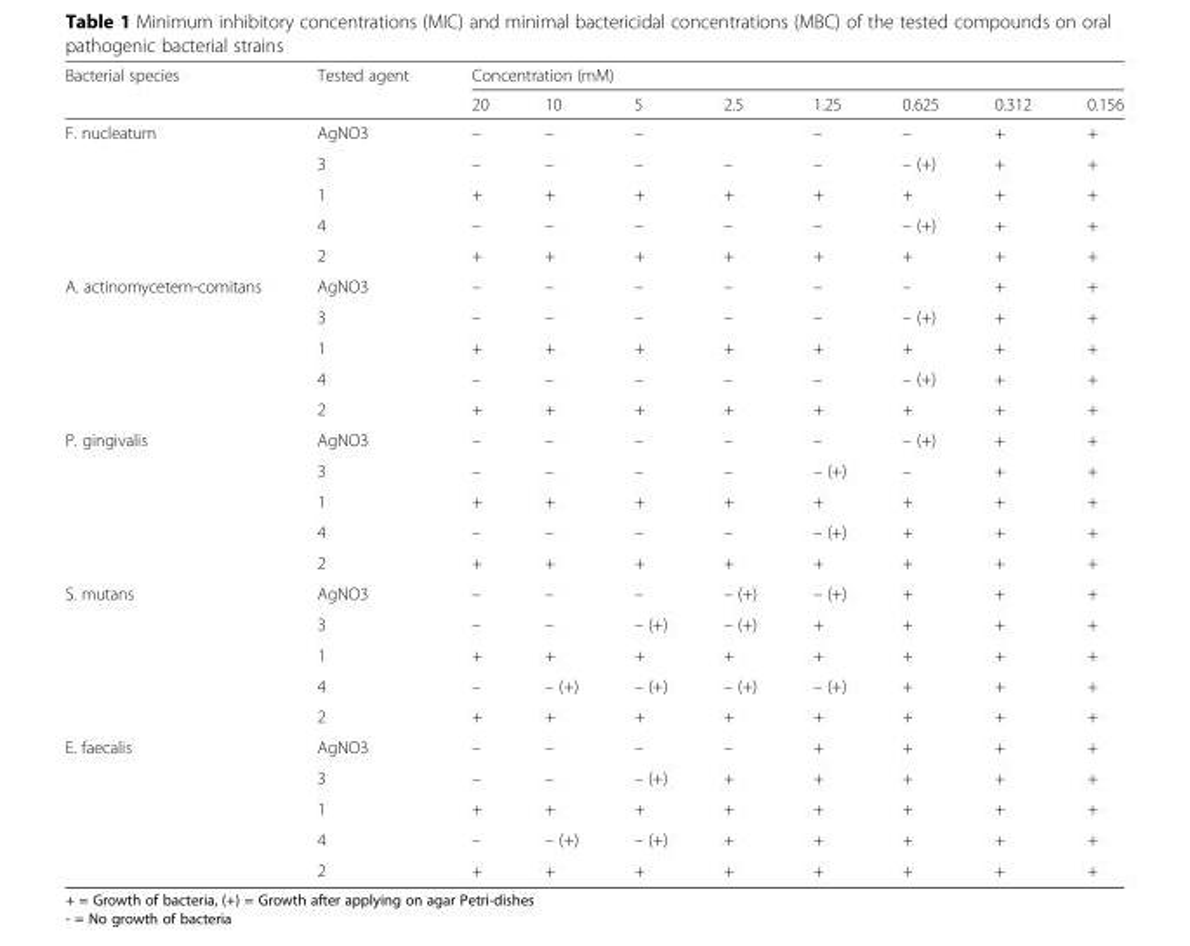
<table><thead><tr><td rowspan="2">Bacterial species</td><td rowspan="2">Tested agent</td><td colspan="8">Concentration (mM)</td></tr><tr><td>20</td><td>10</td><td>5</td><td>2.5</td><td>1.25</td><td>0.625</td><td>0.312</td><td>0.156</td></tr></thead><tbody><tr><td rowspan="5">F. nucleatum</td><td>AgNO3</td><td>–</td><td>–</td><td>–</td><td></td><td>–</td><td>–</td><td>+</td><td>+</td></tr><tr><td>3</td><td>–</td><td>–</td><td>–</td><td>–</td><td>–</td><td>– (+)</td><td>+</td><td>+</td></tr><tr><td>1</td><td>+</td><td>+</td><td>+</td><td>+</td><td>+</td><td>+</td><td>+</td><td>+</td></tr><tr><td>4</td><td>–</td><td>–</td><td>–</td><td>–</td><td>–</td><td>– (+)</td><td>+</td><td>+</td></tr><tr><td>2</td><td>+</td><td>+</td><td>+</td><td>+</td><td>+</td><td>+</td><td>+</td><td>+</td></tr><tr><td rowspan="5">A. actinomycetem-comitans</td><td>AgNO3</td><td>–</td><td>–</td><td>–</td><td>–</td><td>–</td><td>–</td><td>+</td><td>+</td></tr><tr><td>3</td><td>–</td><td>–</td><td>–</td><td>–</td><td>–</td><td>– (+)</td><td>+</td><td>+</td></tr><tr><td>1</td><td>+</td><td>+</td><td>+</td><td>+</td><td>+</td><td>+</td><td>+</td><td>+</td></tr><tr><td>4</td><td>–</td><td>–</td><td>–</td><td>–</td><td>–</td><td>– (+)</td><td>+</td><td>+</td></tr><tr><td>2</td><td>+</td><td>+</td><td>+</td><td>+</td><td>+</td><td>+</td><td>+</td><td>+</td></tr><tr><td rowspan="5">P. gingivalis</td><td>AgNO3</td><td>–</td><td>–</td><td>–</td><td>–</td><td>–</td><td>– (+)</td><td>+</td><td>+</td></tr><tr><td>3</td><td>–</td><td>–</td><td>–</td><td>–</td><td>– (+)</td><td>–</td><td>+</td><td>+</td></tr><tr><td>1</td><td>+</td><td>+</td><td>+</td><td>+</td><td>+</td><td>+</td><td>+</td><td>+</td></tr><tr><td>4</td><td>–</td><td>–</td><td>–</td><td>–</td><td>– (+)</td><td>+</td><td>+</td><td>+</td></tr><tr><td>2</td><td>+</td><td>+</td><td>+</td><td>+</td><td>+</td><td>+</td><td>+</td><td>+</td></tr><tr><td rowspan="5">S. mutans</td><td>AgNO3</td><td>–</td><td>–</td><td>–</td><td>– (+)</td><td>– (+)</td><td>+</td><td>+</td><td>+</td></tr><tr><td>3</td><td>–</td><td>–</td><td>– (+)</td><td>– (+)</td><td>+</td><td>+</td><td>+</td><td>+</td></tr><tr><td>1</td><td>+</td><td>+</td><td>+</td><td>+</td><td>+</td><td>+</td><td>+</td><td>+</td></tr><tr><td>4</td><td>–</td><td>– (+)</td><td>– (+)</td><td>– (+)</td><td>– (+)</td><td>+</td><td>+</td><td>+</td></tr><tr><td>2</td><td>+</td><td>+</td><td>+</td><td>+</td><td>+</td><td>+</td><td>+</td><td>+</td></tr><tr><td rowspan="5">E. faecalis</td><td>AgNO3</td><td>–</td><td>–</td><td>–</td><td>–</td><td>+</td><td>+</td><td>+</td><td>+</td></tr><tr><td>3</td><td>–</td><td>–</td><td>– (+)</td><td>+</td><td>+</td><td>+</td><td>+</td><td>+</td></tr><tr><td>1</td><td>+</td><td>+</td><td>+</td><td>+</td><td>+</td><td>+</td><td>+</td><td>+</td></tr><tr><td>4</td><td>–</td><td>– (+)</td><td>– (+)</td><td>+</td><td>+</td><td>+</td><td>+</td><td>+</td></tr><tr><td>2</td><td>+</td><td>+</td><td>+</td><td>+</td><td>+</td><td>+</td><td>+</td><td>+</td></tr></tbody></table>